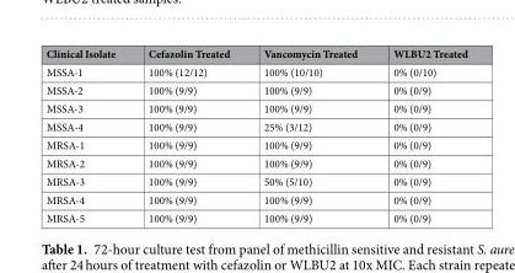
<table><thead><tr><td>Clinical Isolate</td><td>Cefazolin Treated</td><td>Vancomycin Treated</td><td>WLBU2 Treated</td></tr></thead><tbody><tr><td>MSSA-1</td><td>100% (12/12)</td><td>100% (10/10)</td><td>0% (0/10)</td></tr><tr><td>MSSA-2</td><td>100% (9/9)</td><td>100% (9/9)</td><td>0% (0/9)</td></tr><tr><td>MSSA-3</td><td>100% (9/9)</td><td>100% (9/9)</td><td>0% (0/9)</td></tr><tr><td>MSSA-4</td><td>100% (9/9)</td><td>25% (3/12)</td><td>0% (0/9)</td></tr><tr><td>MRSA-1</td><td>100% (9/9)</td><td>100% (9/9)</td><td>0% (0/9)</td></tr><tr><td>MRSA-2</td><td>100% (9/9)</td><td>100% (9/9)</td><td>0% (0/9)</td></tr><tr><td>MRSA-3</td><td>100% (9/9)</td><td>50% (5/10)</td><td>0% (0/9)</td></tr><tr><td>MRSA-4</td><td>100% (9/9)</td><td>100% (9/9)</td><td>0% (0/9)</td></tr><tr><td>MRSA-5</td><td>100% (9/9)</td><td>100% (9/9)</td><td>0% (0/9)</td></tr></tbody></table>